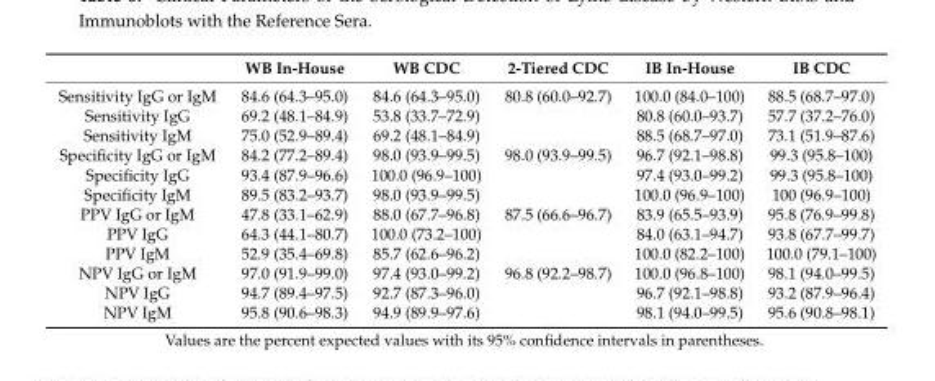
<table><thead><tr><td></td><td>WB In-House</td><td>WB CDC</td><td>2-Tiered CDC</td><td>IB In-House</td><td>IB CDC</td></tr></thead><tbody><tr><td>Sensitivity IgG or IgM</td><td>84.6 (64.3–95.0)</td><td>84.6 (64.3–95.0)</td><td>80.8 (60.0–92.7)</td><td>100.0 (84.0–100)</td><td>88.5 (68.7–97.0)</td></tr><tr><td>Sensitivity IgG</td><td>69.2 (48.1–84.9)</td><td>53.8 (33.7–72.9)</td><td rowspan="2"></td><td>80.8 (60.0–93.7)</td><td>57.7 (37.2–76.0)</td></tr><tr><td>Sensitivity IgM</td><td>75.0 (52.9–89.4)</td><td>69.2 (48.1–84.9)</td><td>88.5 (68.7–97.0)</td><td>73.1 (51.9–87.6)</td></tr><tr><td>Specificity IgG or IgM</td><td>84.2 (77.2–89.4)</td><td>98.0 (93.9–99.5)</td><td>98.0 (93.9–99.5)</td><td>96.7 (92.1–98.8)</td><td>99.3 (95.8–100)</td></tr><tr><td>Specificity IgG</td><td>93.4 (87.9–96.6)</td><td>100.0 (96.9–100)</td><td rowspan="2"></td><td>97.4 (93.0–99.2)</td><td>99.3 (95.8–100)</td></tr><tr><td>Specificity IgM</td><td>89.5 (83.2–93.7)</td><td>98.0 (93.9–99.5)</td><td>100.0 (96.9–100)</td><td>100 (96.9–100)</td></tr><tr><td>PPV IgG or IgM</td><td>47.8 (33.1–62.9)</td><td>88.0 (67.7–96.8)</td><td>87.5 (66.6–96.7)</td><td>83.9 (65.5–93.9)</td><td>95.8 (76.9–99.8)</td></tr><tr><td>PPV IgG</td><td>64.3 (44.1–80.7)</td><td>100.0 (73.2–100)</td><td rowspan="2"></td><td>84.0 (63.1–94.7)</td><td>93.8 (67.7–99.7)</td></tr><tr><td>PPV IgM</td><td>52.9 (35.4–69.8)</td><td>85.7 (62.6–96.2)</td><td>100.0 (82.2–100)</td><td>100.0 (79.1–100)</td></tr><tr><td>NPV IgG or IgM</td><td>97.0 (91.9–99.0)</td><td>97.4 (93.0–99.2)</td><td>96.8 (92.2–98.7)</td><td>100.0 (96.8–100)</td><td>98.1 (94.0–99.5)</td></tr><tr><td>NPV IgG</td><td>94.7 (89.4–97.5)</td><td>92.7 (87.3–96.0)</td><td rowspan="2"></td><td>96.7 (92.1–98.8)</td><td>93.2 (87.9–96.4)</td></tr><tr><td>NPV IgM</td><td>95.8 (90.6–98.3)</td><td>94.9 (89.9–97.6)</td><td>98.1 (94.0–99.5)</td><td>95.6 (90.8–98.1)</td></tr></tbody></table>